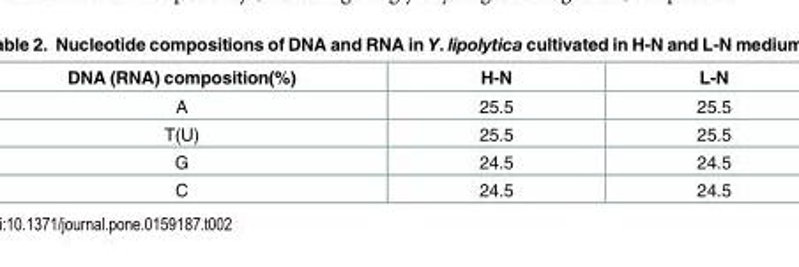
<table><thead><tr><td>DNA (RNA) composition(%)</td><td>H-N</td><td>L-N</td></tr></thead><tbody><tr><td>A</td><td>25.5</td><td>25.5</td></tr><tr><td>T(U)</td><td>25.5</td><td>25.5</td></tr><tr><td>G</td><td>24.5</td><td>24.5</td></tr><tr><td>C</td><td>24.5</td><td>24.5</td></tr></tbody></table>